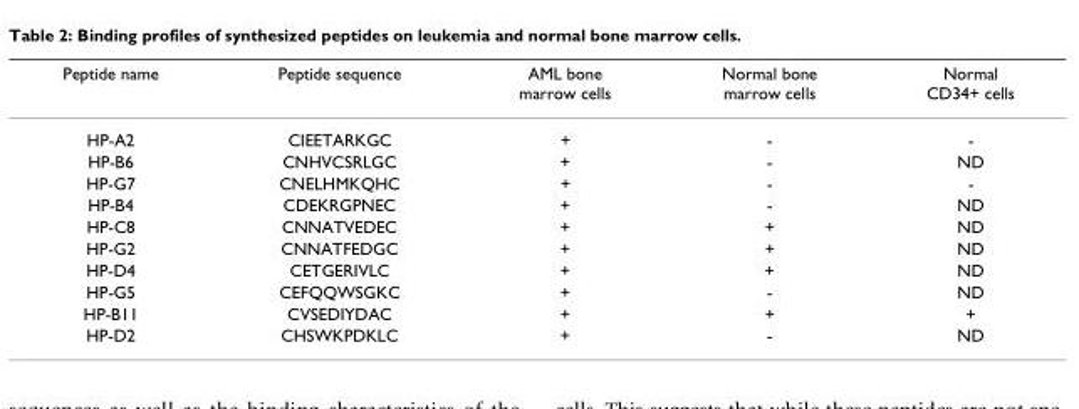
<table><thead><tr><td>Peptide name</td><td>Peptide sequence</td><td>AML bone marrow cells</td><td>Normal bone marrow cells</td><td>Normal CD34+ cells</td></tr></thead><tbody><tr><td>HP-A2</td><td>CIEETARKGC</td><td>+</td><td>-</td><td>-</td></tr><tr><td>HP-B6</td><td>CNHVCSRLGC</td><td>+</td><td>-</td><td>ND</td></tr><tr><td>HP-G7</td><td>CNELHMKQHC</td><td>+</td><td>-</td><td>-</td></tr><tr><td>HP-B4</td><td>CDEKRGPNEC</td><td>+</td><td>-</td><td>ND</td></tr><tr><td>HP-C8</td><td>CNNATVEDEC</td><td>+</td><td>+</td><td>ND</td></tr><tr><td>HP-G2</td><td>CNNATFEDGC</td><td>+</td><td>+</td><td>ND</td></tr><tr><td>HP-D4</td><td>CETGERIVLC</td><td>+</td><td>+</td><td>ND</td></tr><tr><td>HP-G5</td><td>CEFQQWSGKC</td><td>+</td><td>-</td><td>ND</td></tr><tr><td>HP-B11</td><td>CVSEDIYDAC</td><td>+</td><td>+</td><td>+</td></tr><tr><td>HP-D2</td><td>CHSWKPDKLC</td><td>+</td><td>-</td><td>ND</td></tr></tbody></table>